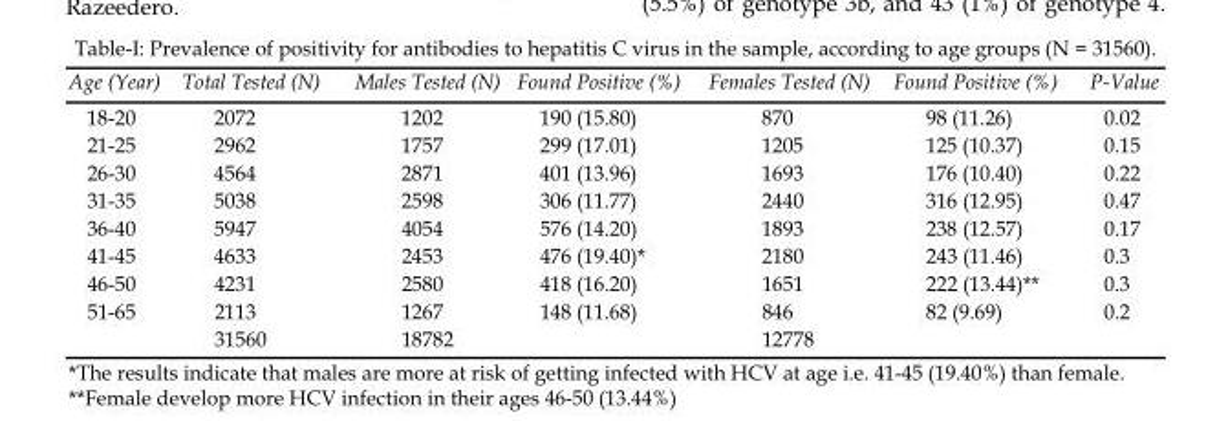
<table><thead><tr><td>Age (Year)</td><td>Total Tested (N)</td><td>Males Tested (N)</td><td>Found Positive (%)</td><td>Females Tested (N)</td><td>Found Positive (%)</td><td>P-Value</td></tr></thead><tbody><tr><td>18-20</td><td>2072</td><td>1202</td><td>190 (15.80)</td><td>870</td><td>98 (11.26)</td><td>0.02</td></tr><tr><td>21-25</td><td>2962</td><td>1757</td><td>299 (17.01)</td><td>1205</td><td>125 (10.37)</td><td>0.15</td></tr><tr><td>26-30</td><td>4564</td><td>2871</td><td>401 (13.96)</td><td>1693</td><td>176 (10.40)</td><td>0.22</td></tr><tr><td>31-35</td><td>5038</td><td>2598</td><td>306 (11.77)</td><td>2440</td><td>316 (12.95)</td><td>0.47</td></tr><tr><td>36-40</td><td>5947</td><td>4054</td><td>576 (14.20)</td><td>1893</td><td>238 (12.57)</td><td>0.17</td></tr><tr><td>41-45</td><td>4633</td><td>2453</td><td>476 (19.40)*</td><td>2180</td><td>243 (11.46)</td><td>0.3</td></tr><tr><td>46-50</td><td>4231</td><td>2580</td><td>418 (16.20)</td><td>1651</td><td>222 (13.44)**</td><td>0.3</td></tr><tr><td rowspan="2">51-65</td><td>2113</td><td>1267</td><td>148 (11.68)</td><td>846</td><td>82 (9.69)</td><td>0.2</td></tr><tr><td>31560</td><td>18782</td><td></td><td>12778</td><td></td><td></td></tr></tbody></table>